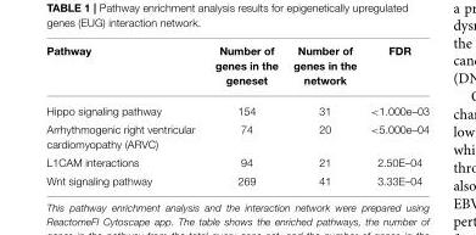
<table><thead><tr><td>Pathway</td><td>Number of genes in the geneset</td><td>Number of genes in the network</td><td>FDR</td></tr></thead><tbody><tr><td>Hippo signaling pathway</td><td>154</td><td>31</td><td>&lt;1.000e–03</td></tr><tr><td>Arrhythmogenic right ventricular cardiomyopathy (ARVC)</td><td>74</td><td>20</td><td>&lt;5.000e–04</td></tr><tr><td>L1CAM interactions</td><td>94</td><td>21</td><td>2.50E–04</td></tr><tr><td>Wnt signaling pathway</td><td>269</td><td>41</td><td>3.33E–04</td></tr></tbody></table>